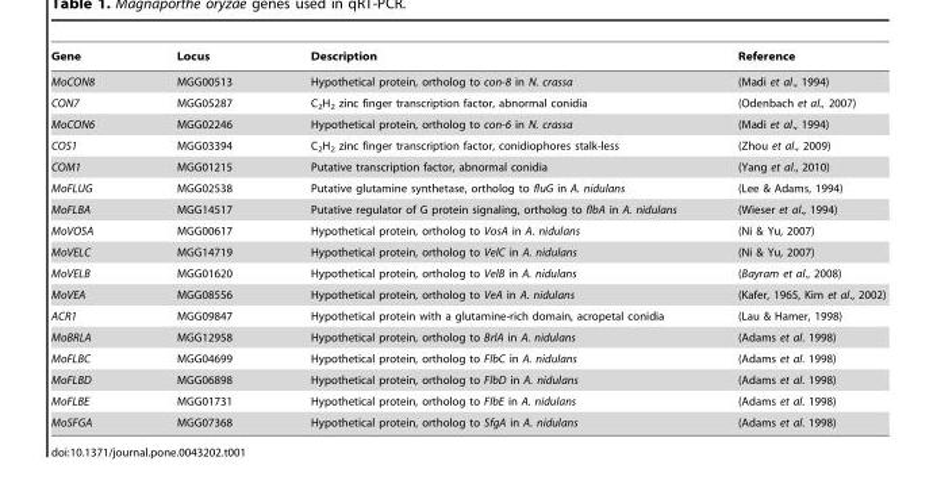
<table><thead><tr><td>Gene</td><td>Locus</td><td>Description</td><td>Reference</td></tr></thead><tbody><tr><td>MoCON8</td><td>MGG00513</td><td>Hypothetical protein, ortholog to con-8 in N. crassa</td><td>(Madi et al., 1994)</td></tr><tr><td>CON7</td><td>MGG05287</td><td>C<sub>2</sub>H<sub>2</sub> zinc finger transcription factor, abnormal conidia</td><td>(Odenbach et al., 2007)</td></tr><tr><td>MoCON6</td><td>MGG02246</td><td>Hypothetical protein, ortholog to con-6 in N. crassa</td><td>(Madi et al., 1994)</td></tr><tr><td>COS1</td><td>MGG03394</td><td>C<sub>2</sub>H<sub>2</sub> zinc finger transcription factor, conidiophores stalk-less</td><td>(Zhou et al., 2009)</td></tr><tr><td>COM1</td><td>MGG01215</td><td>Putative transcription factor, abnormal conidia</td><td>(Yang et al., 2010)</td></tr><tr><td>MoFLUG</td><td>MGG02538</td><td>Putative glutamine synthetase, ortholog to fluG in A. nidulans</td><td>(Lee &amp; Adams, 1994)</td></tr><tr><td>MoFLBA</td><td>MGG14517</td><td>Putative regulator of G protein signaling, ortholog to flbA in A. nidulans</td><td>(Wieser et al., 1994)</td></tr><tr><td>MoVOSA</td><td>MGG00617</td><td>Hypothetical protein, ortholog to VosA in A. nidulans</td><td>(Ni &amp; Yu, 2007)</td></tr><tr><td>MoVELC</td><td>MGG14719</td><td>Hypothetical protein, ortholog to VelC in A. nidulans</td><td>(Ni &amp; Yu, 2007)</td></tr><tr><td>MoVELB</td><td>MGG01620</td><td>Hypothetical protein, ortholog to VelB in A. nidulans</td><td>(Bayram et al., 2008)</td></tr><tr><td>MoVEA</td><td>MGG08556</td><td>Hypothetical protein, ortholog to VeA in A. nidulans</td><td>(Kafer, 1965, Kim et al., 2002)</td></tr><tr><td>ACR1</td><td>MGG09847</td><td>Hypothetical protein with a glutamine-rich domain, acropetal conidia</td><td>(Lau &amp; Hamer, 1998)</td></tr><tr><td>MoBRLA</td><td>MGG12958</td><td>Hypothetical protein, ortholog to BrlA in A. nidulans</td><td>(Adams et al. 1998)</td></tr><tr><td>MoFLBC</td><td>MGG04699</td><td>Hypothetical protein, ortholog to FlbC in A. nidulans</td><td>(Adams et al. 1998)</td></tr><tr><td>MoFLBD</td><td>MGG06898</td><td>Hypothetical protein, ortholog to FlbD in A. nidulans</td><td>(Adams et al. 1998)</td></tr><tr><td>MoFLBE</td><td>MGG01731</td><td>Hypothetical protein, ortholog to FlbE in A. nidulans</td><td>(Adams et al. 1998)</td></tr><tr><td>MoSFGA</td><td>MGG07368</td><td>Hypothetical protein, ortholog to SfgA in A. nidulans</td><td>(Adams et al. 1998)</td></tr></tbody></table>